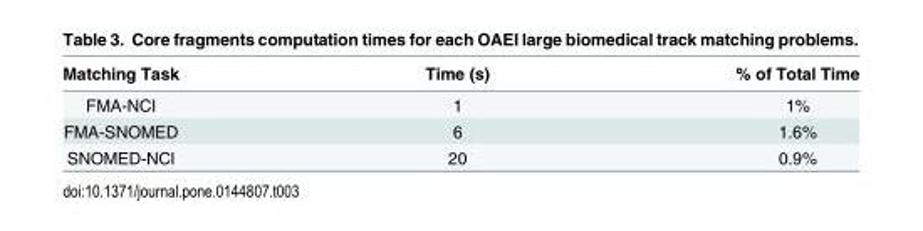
<table><thead><tr><td>Matching Task</td><td>Time (s)</td><td>% of Total Time</td></tr></thead><tbody><tr><td>FMA-NCI</td><td>1</td><td>1%</td></tr><tr><td>FMA-SNOMED</td><td>6</td><td>1.6%</td></tr><tr><td>SNOMED-NCI</td><td>20</td><td>0.9%</td></tr></tbody></table>